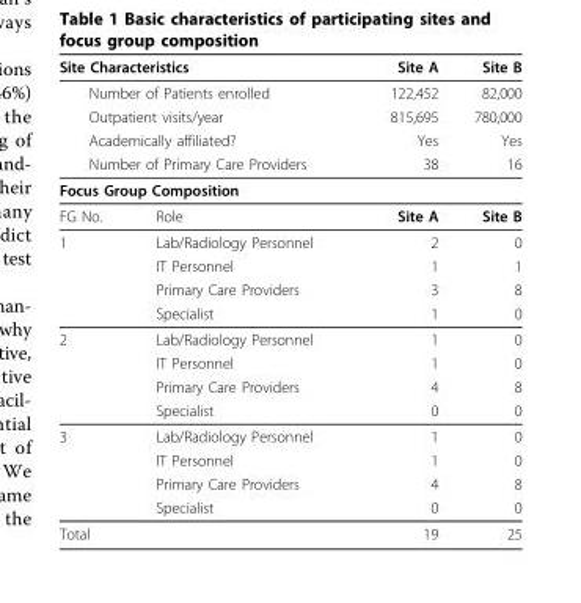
<table><thead><tr><td colspan="2">Site Characteristics</td><td>Site A</td><td>Site B</td></tr></thead><tbody><tr><td colspan="2">Number of Patients enrolled</td><td>122,452</td><td>82,000</td></tr><tr><td colspan="2">Outpatient visits/year</td><td>815,695</td><td>780,000</td></tr><tr><td colspan="2">Academically affiliated?</td><td>Yes</td><td>Yes</td></tr><tr><td colspan="2">Number of Primary Care Providers</td><td>38</td><td>16</td></tr><tr><td colspan="4">Focus Group Composition</td></tr><tr><td>FG No.</td><td>Role</td><td>Site A</td><td>Site B</td></tr><tr><td rowspan="4">1</td><td>Lab/Radiology Personnel</td><td>2</td><td>0</td></tr><tr><td>IT Personnel</td><td>1</td><td>1</td></tr><tr><td>Primary Care Providers</td><td>3</td><td>8</td></tr><tr><td>Specialist</td><td>1</td><td>0</td></tr><tr><td rowspan="4">2</td><td>Lab/Radiology Personnel</td><td>1</td><td>0</td></tr><tr><td>IT Personnel</td><td>1</td><td>0</td></tr><tr><td>Primary Care Providers</td><td>4</td><td>8</td></tr><tr><td>Specialist</td><td>0</td><td>0</td></tr><tr><td rowspan="4">3</td><td>Lab/Radiology Personnel</td><td>1</td><td>0</td></tr><tr><td>IT Personnel</td><td>1</td><td>0</td></tr><tr><td>Primary Care Providers</td><td>4</td><td>8</td></tr><tr><td>Specialist</td><td>0</td><td>0</td></tr><tr><td>Total</td><td></td><td>19</td><td>25</td></tr></tbody></table>